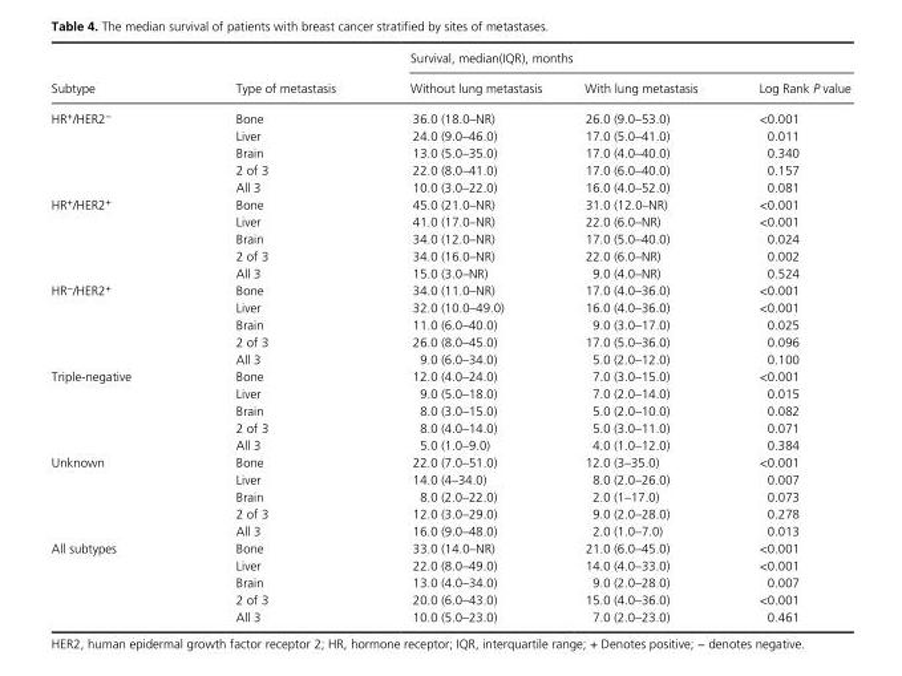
<table><thead><tr><td rowspan="2">Subtype</td><td rowspan="2">Type of metastasis</td><td colspan="3">Survival, median(IQR), months</td></tr><tr><td>Without lung metastasis</td><td>With lung metastasis</td><td>Log Rank P value</td></tr></thead><tbody><tr><td rowspan="5">HR<sup>+</sup>/HER2<sup>−</sup></td><td>Bone</td><td>36.0 (18.0–NR)</td><td>26.0 (9.0–53.0)</td><td>&lt;0.001</td></tr><tr><td>Liver</td><td>24.0 (9.0–46.0)</td><td>17.0 (5.0–41.0)</td><td>0.011</td></tr><tr><td>Brain</td><td>13.0 (5.0–35.0)</td><td>17.0 (4.0–40.0)</td><td>0.340</td></tr><tr><td>2 of 3</td><td>22.0 (8.0–41.0)</td><td>17.0 (6.0–40.0)</td><td>0.157</td></tr><tr><td>All 3</td><td>10.0 (3.0–22.0)</td><td>16.0 (4.0–52.0)</td><td>0.081</td></tr><tr><td rowspan="5">HR<sup>+</sup>/HER2<sup>+</sup></td><td>Bone</td><td>45.0 (21.0–NR)</td><td>31.0 (12.0–NR)</td><td>&lt;0.001</td></tr><tr><td>Liver</td><td>41.0 (17.0–NR)</td><td>22.0 (6.0–NR)</td><td>&lt;0.001</td></tr><tr><td>Brain</td><td>34.0 (12.0–NR)</td><td>17.0 (5.0–40.0)</td><td>0.024</td></tr><tr><td>2 of 3</td><td>34.0 (16.0–NR)</td><td>22.0 (6.0–NR)</td><td>0.002</td></tr><tr><td>All 3</td><td>15.0 (3.0–NR)</td><td>9.0 (4.0–NR)</td><td>0.524</td></tr><tr><td rowspan="5">HR<sup>−</sup>/HER2<sup>+</sup></td><td>Bone</td><td>34.0 (11.0–NR)</td><td>17.0 (4.0–36.0)</td><td>&lt;0.001</td></tr><tr><td>Liver</td><td>32.0 (10.0–49.0)</td><td>16.0 (4.0–36.0)</td><td>&lt;0.001</td></tr><tr><td>Brain</td><td>11.0 (6.0–40.0)</td><td>9.0 (3.0–17.0)</td><td>0.025</td></tr><tr><td>2 of 3</td><td>26.0 (8.0–45.0)</td><td>17.0 (5.0–36.0)</td><td>0.096</td></tr><tr><td>All 3</td><td>9.0 (6.0–34.0)</td><td>5.0 (2.0–12.0)</td><td>0.100</td></tr><tr><td rowspan="5">Triple- negative</td><td>Bone</td><td>12.0 (4.0–24.0)</td><td>7.0 (3.0–15.0)</td><td>&lt;0.001</td></tr><tr><td>Liver</td><td>9.0 (5.0–18.0)</td><td>7.0 (2.0–14.0)</td><td>0.015</td></tr><tr><td>Brain</td><td>8.0 (3.0–15.0)</td><td>5.0 (2.0–10.0)</td><td>0.082</td></tr><tr><td>2 of 3</td><td>8.0 (4.0–14.0)</td><td>5.0 (3.0–11.0)</td><td>0.071</td></tr><tr><td>All 3</td><td>5.0 (1.0–9.0)</td><td>4.0 (1.0–12.0)</td><td>0.384</td></tr><tr><td rowspan="5">Unknown</td><td>Bone</td><td>22.0 (7.0–51.0)</td><td>12.0 (3–35.0)</td><td>&lt;0.001</td></tr><tr><td>Liver</td><td>14.0 (4–34.0)</td><td>8.0 (2.0–26.0)</td><td>0.007</td></tr><tr><td>Brain</td><td>8.0 (2.0–22.0)</td><td>2.0 (1–17.0)</td><td>0.073</td></tr><tr><td>2 of 3</td><td>12.0 (3.0–29.0)</td><td>9.0 (2.0–28.0)</td><td>0.278</td></tr><tr><td>All 3</td><td>16.0 (9.0–48.0)</td><td>2.0 (1.0–7.0)</td><td>0.013</td></tr><tr><td rowspan="5">All subtypes</td><td>Bone</td><td>33.0 (14.0–NR)</td><td>21.0 (6.0–45.0)</td><td>&lt;0.001</td></tr><tr><td>Liver</td><td>22.0 (8.0–49.0)</td><td>14.0 (4.0–33.0)</td><td>&lt;0.001</td></tr><tr><td>Brain</td><td>13.0 (4.0–34.0)</td><td>9.0 (2.0–28.0)</td><td>0.007</td></tr><tr><td>2 of 3</td><td>20.0 (6.0–43.0)</td><td>15.0 (4.0–36.0)</td><td>&lt;0.001</td></tr><tr><td>All 3</td><td>10.0 (5.0–23.0)</td><td>7.0 (2.0–23.0)</td><td>0.461</td></tr></tbody></table>